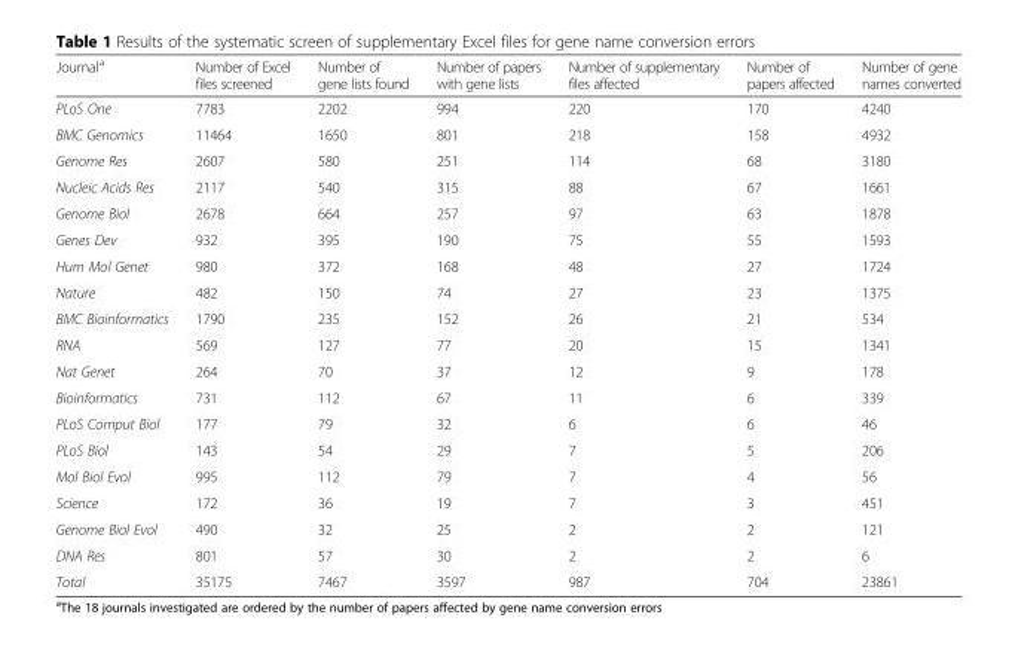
<table><thead><tr><td>Journal<sup>a</sup></td><td>Number of Excel files screened</td><td>Number of gene lists found</td><td>Number of papers with gene lists</td><td>Number of supplementary files affected</td><td>Number of papers affected</td><td>Number of gene names converted</td></tr></thead><tbody><tr><td>PLoS One</td><td>7783</td><td>2202</td><td>994</td><td>220</td><td>170</td><td>4240</td></tr><tr><td>BMC Genomics</td><td>11464</td><td>1650</td><td>801</td><td>218</td><td>158</td><td>4932</td></tr><tr><td>Genome Res</td><td>2607</td><td>580</td><td>251</td><td>114</td><td>68</td><td>3180</td></tr><tr><td>Nucleic Acids Res</td><td>2117</td><td>540</td><td>315</td><td>88</td><td>67</td><td>1661</td></tr><tr><td>Genome Biol</td><td>2678</td><td>664</td><td>257</td><td>97</td><td>63</td><td>1878</td></tr><tr><td>Genes Dev</td><td>932</td><td>395</td><td>190</td><td>75</td><td>55</td><td>1593</td></tr><tr><td>Hum Mol Genet</td><td>980</td><td>372</td><td>168</td><td>48</td><td>27</td><td>1724</td></tr><tr><td>Nature</td><td>482</td><td>150</td><td>74</td><td>27</td><td>23</td><td>1375</td></tr><tr><td>BMC Bioinformatics</td><td>1790</td><td>235</td><td>152</td><td>26</td><td>21</td><td>534</td></tr><tr><td>RNA</td><td>569</td><td>127</td><td>77</td><td>20</td><td>15</td><td>1341</td></tr><tr><td>Nat Genet</td><td>264</td><td>70</td><td>37</td><td>12</td><td>9</td><td>178</td></tr><tr><td>Bioinformatics</td><td>731</td><td>112</td><td>67</td><td>11</td><td>6</td><td>339</td></tr><tr><td>PLoS Comput Biol</td><td>177</td><td>79</td><td>32</td><td>6</td><td>6</td><td>46</td></tr><tr><td>PLoS Biol</td><td>143</td><td>54</td><td>29</td><td>7</td><td>5</td><td>206</td></tr><tr><td>Mol Biol Evol</td><td>995</td><td>112</td><td>79</td><td>7</td><td>4</td><td>56</td></tr><tr><td>Science</td><td>172</td><td>36</td><td>19</td><td>7</td><td>3</td><td>451</td></tr><tr><td>Genome Biol Evol</td><td>490</td><td>32</td><td>25</td><td>2</td><td>2</td><td>121</td></tr><tr><td>DNA Res</td><td>801</td><td>57</td><td>30</td><td>2</td><td>2</td><td>6</td></tr><tr><td>Total</td><td>35175</td><td>7467</td><td>3597</td><td>987</td><td>704</td><td>23861</td></tr></tbody></table>